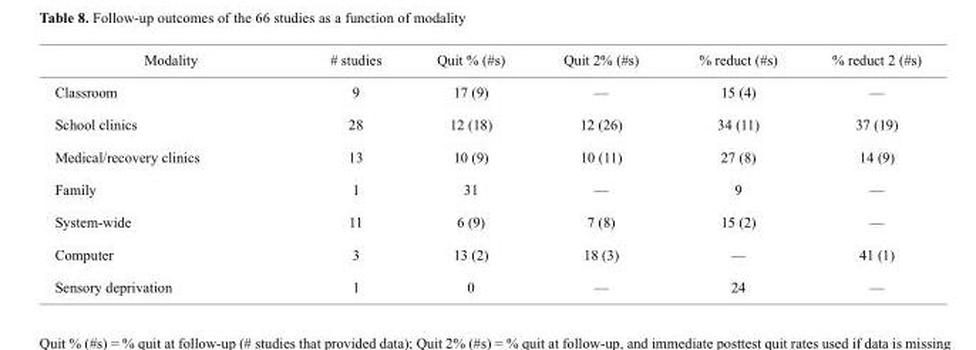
<table><thead><tr><td>Modality</td><td># studies</td><td>Quit % (#s)</td><td>Quit 2% (#s)</td><td>% reduct (#s)</td><td>% reduct 2 (#s)</td></tr></thead><tbody><tr><td>Classroom</td><td>9</td><td>17 (9)</td><td>—</td><td>15 (4)</td><td>—</td></tr><tr><td>School clinics</td><td>28</td><td>12 (18)</td><td>12 (26)</td><td>34 (11)</td><td>37 (19)</td></tr><tr><td>Medical/recovery clinics</td><td>13</td><td>10 (9)</td><td>10 (11)</td><td>27 (8)</td><td>14 (9)</td></tr><tr><td>Family</td><td>1</td><td>31</td><td>—</td><td>9</td><td>—</td></tr><tr><td>System-wide</td><td>11</td><td>6 (9)</td><td>7 (8)</td><td>15 (2)</td><td>—</td></tr><tr><td>Computer</td><td>3</td><td>13 (2)</td><td>18 (3)</td><td>—</td><td>41 (1)</td></tr><tr><td>Sensory deprivation</td><td>1</td><td>0</td><td>—</td><td>24</td><td>—</td></tr></tbody></table>